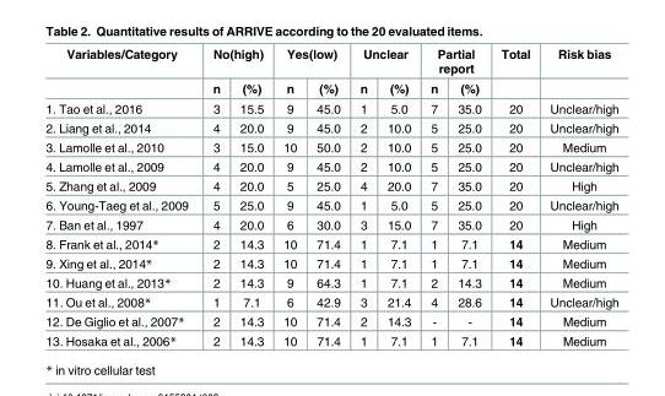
<table><thead><tr><td rowspan="2">Variables/Category</td><td colspan="2">No(high)</td><td colspan="2">Yes(low)</td><td colspan="2">Unclear</td><td colspan="2">Partial report</td><td rowspan="2">Total</td><td rowspan="2">Risk bias</td></tr><tr><td>n</td><td>(%)</td><td>n</td><td>(%)</td><td>n</td><td>(%)</td><td>n</td><td>(%)</td></tr></thead><tbody><tr><td>1. Tao et al., 2016</td><td>3</td><td>15.5</td><td>9</td><td>45.0</td><td>1</td><td>5.0</td><td>7</td><td>35.0</td><td>20</td><td>Unclear/high</td></tr><tr><td>2. Liang et al., 2014</td><td>4</td><td>20.0</td><td>9</td><td>45.0</td><td>2</td><td>10.0</td><td>5</td><td>25.0</td><td>20</td><td>Unclear/high</td></tr><tr><td>3. Lamolle et al., 2010</td><td>3</td><td>15.0</td><td>10</td><td>50.0</td><td>2</td><td>10.0</td><td>5</td><td>25.0</td><td>20</td><td>Medium</td></tr><tr><td>4. Lamolle et al., 2009</td><td>4</td><td>20.0</td><td>9</td><td>45.0</td><td>2</td><td>10.0</td><td>5</td><td>25.0</td><td>20</td><td>Unclear/high</td></tr><tr><td>5. Zhang et al., 2009</td><td>4</td><td>20.0</td><td>5</td><td>25.0</td><td>4</td><td>20.0</td><td>7</td><td>35.0</td><td>20</td><td>High</td></tr><tr><td>6. Young-Taeg et al., 2009</td><td>5</td><td>25.0</td><td>9</td><td>45.0</td><td>1</td><td>5.0</td><td>5</td><td>25.0</td><td>20</td><td>Unclear/high</td></tr><tr><td>7. Ban et al., 1997</td><td>4</td><td>20.0</td><td>6</td><td>30.0</td><td>3</td><td>15.0</td><td>7</td><td>35.0</td><td>20</td><td>High</td></tr><tr><td>8. Frank et al., 2014*</td><td>2</td><td>14.3</td><td>10</td><td>71.4</td><td>1</td><td>7.1</td><td>1</td><td>7.1</td><td>14</td><td>Medium</td></tr><tr><td>9. Xing et al., 2014*</td><td>2</td><td>14.3</td><td>10</td><td>71.4</td><td>1</td><td>7.1</td><td>1</td><td>7.1</td><td>14</td><td>Medium</td></tr><tr><td>10. Huang et al., 2013*</td><td>2</td><td>14.3</td><td>9</td><td>64.3</td><td>1</td><td>7.1</td><td>2</td><td>14.3</td><td>14</td><td>Medium</td></tr><tr><td>11. Ou et al., 2008*</td><td>1</td><td>7.1</td><td>6</td><td>42.9</td><td>3</td><td>21.4</td><td>4</td><td>28.6</td><td>14</td><td>Unclear/high</td></tr><tr><td>12. De Giglio et al., 2007*</td><td>2</td><td>14.3</td><td>10</td><td>71.4</td><td>2</td><td>14.3</td><td>-</td><td>-</td><td>14</td><td>Medium</td></tr><tr><td>13. Hosaka et al., 2006*</td><td>2</td><td>14.3</td><td>10</td><td>71.4</td><td>1</td><td>7.1</td><td>1</td><td>7.1</td><td>14</td><td>Medium</td></tr></tbody></table>